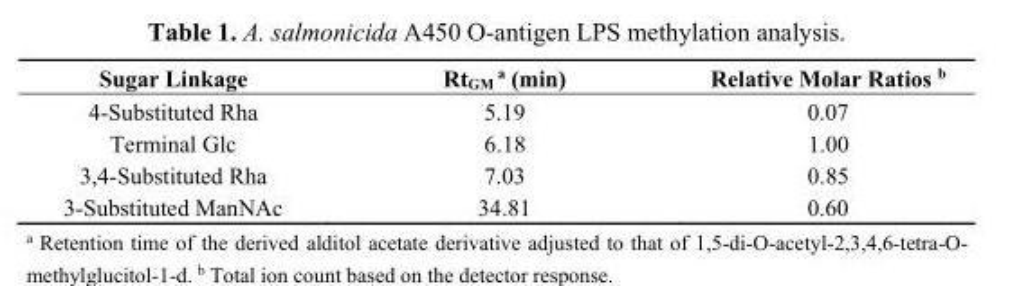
<table><thead><tr><td>Sugar Linkage</td><td>Rt<sub>GM</sub> <sup>a</sup> (min)</td><td>Relative Molar Ratios <sup>b</sup></td></tr></thead><tbody><tr><td>4-Substituted Rha</td><td>5.19</td><td>0.07</td></tr><tr><td>Terminal Glc</td><td>6.18</td><td>1.00</td></tr><tr><td>3,4-Substituted Rha</td><td>7.03</td><td>0.85</td></tr><tr><td>3-Substituted ManNAc</td><td>34.81</td><td>0.60</td></tr></tbody></table>